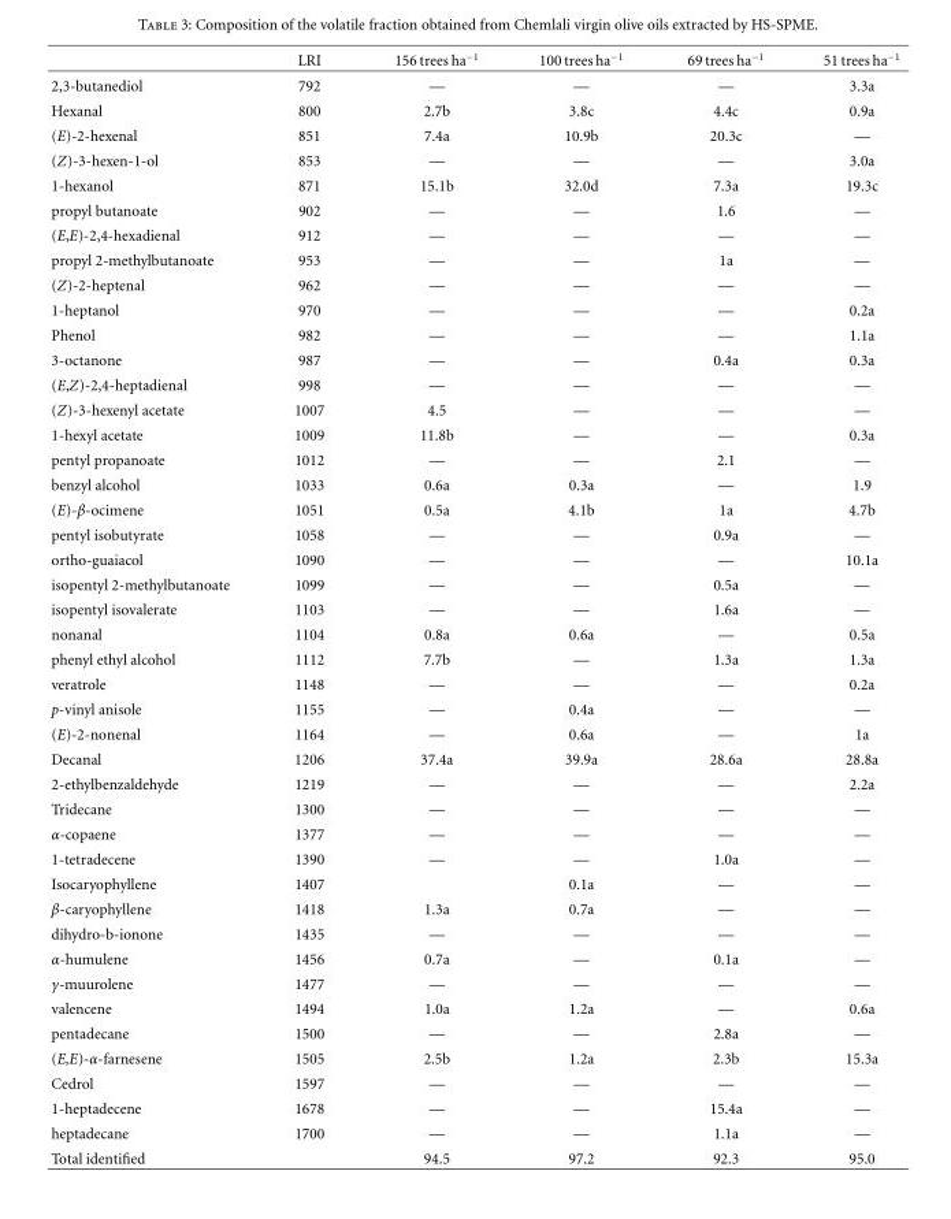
<table><thead><tr><td></td><td>LRI</td><td>156 trees ha<sup>−1</sup></td><td>100 trees ha<sup>−1</sup></td><td>69 trees ha<sup>−1</sup></td><td>51 trees ha<sup>−1</sup></td></tr></thead><tbody><tr><td>2,3-butanediol</td><td>792</td><td>—</td><td>—</td><td>—</td><td>3.3a</td></tr><tr><td>Hexanal</td><td>800</td><td>2.7b</td><td>3.8c</td><td>4.4c</td><td>0.9a</td></tr><tr><td>(E)-2-hexenal</td><td>851</td><td>7.4a</td><td>10.9b</td><td>20.3c</td><td>—</td></tr><tr><td>(Z)-3-hexen-1-ol</td><td>853</td><td>—</td><td>—</td><td>—</td><td>3.0a</td></tr><tr><td>1-hexanol</td><td>871</td><td>15.1b</td><td>32.0d</td><td>7.3a</td><td>19.3c</td></tr><tr><td>propyl butanoate</td><td>902</td><td>—</td><td>—</td><td>1.6</td><td>—</td></tr><tr><td>(E,E)-2,4-hexadienal</td><td>912</td><td>—</td><td>—</td><td>—</td><td>—</td></tr><tr><td>propyl 2-methylbutanoate</td><td>953</td><td>—</td><td>—</td><td>1a</td><td>—</td></tr><tr><td>(Z)-2-heptenal</td><td>962</td><td>—</td><td>—</td><td>—</td><td>—</td></tr><tr><td>1-heptanol</td><td>970</td><td>—</td><td>—</td><td>—</td><td>0.2a</td></tr><tr><td>Phenol</td><td>982</td><td>—</td><td>—</td><td>—</td><td>1.1a</td></tr><tr><td>3-octanone</td><td>987</td><td>—</td><td>—</td><td>0.4a</td><td>0.3a</td></tr><tr><td>(E,Z)-2,4-heptadienal</td><td>998</td><td>—</td><td>—</td><td>—</td><td>—</td></tr><tr><td>(Z)-3-hexenyl acetate</td><td>1007</td><td>4.5</td><td>—</td><td>—</td><td>—</td></tr><tr><td>1-hexyl acetate</td><td>1009</td><td>11.8b</td><td>—</td><td>—</td><td>0.3a</td></tr><tr><td>pentyl propanoate</td><td>1012</td><td>—</td><td>—</td><td>2.1</td><td>—</td></tr><tr><td>benzyl alcohol</td><td>1033</td><td>0.6a</td><td>0.3a</td><td>—</td><td>1.9</td></tr><tr><td>(E)-β-ocimene</td><td>1051</td><td>0.5a</td><td>4.1b</td><td>1a</td><td>4.7b</td></tr><tr><td>pentyl isobutyrate</td><td>1058</td><td>—</td><td>—</td><td>0.9a</td><td>—</td></tr><tr><td>ortho-guaiacol</td><td>1090</td><td>—</td><td>—</td><td>—</td><td>10.1a</td></tr><tr><td>isopentyl 2-methylbutanoate</td><td>1099</td><td>—</td><td>—</td><td>0.5a</td><td>—</td></tr><tr><td>isopentyl isovalerate</td><td>1103</td><td>—</td><td>—</td><td>1.6a</td><td>—</td></tr><tr><td>nonanal</td><td>1104</td><td>0.8a</td><td>0.6a</td><td>—</td><td>0.5a</td></tr><tr><td>phenyl ethyl alcohol</td><td>1112</td><td>7.7b</td><td>—</td><td>1.3a</td><td>1.3a</td></tr><tr><td>veratrole</td><td>1148</td><td>—</td><td>—</td><td>—</td><td>0.2a</td></tr><tr><td>p-vinyl anisole</td><td>1155</td><td>—</td><td>0.4a</td><td>—</td><td>—</td></tr><tr><td>(E)-2-nonenal</td><td>1164</td><td>—</td><td>0.6a</td><td>—</td><td>1a</td></tr><tr><td>Decanal</td><td>1206</td><td>37.4a</td><td>39.9a</td><td>28.6a</td><td>28.8a</td></tr><tr><td>2-ethylbenzaldehyde</td><td>1219</td><td>—</td><td>—</td><td>—</td><td>2.2a</td></tr><tr><td>Tridecane</td><td>1300</td><td>—</td><td>—</td><td>—</td><td>—</td></tr><tr><td>α-copaene</td><td>1377</td><td>—</td><td>—</td><td>—</td><td>—</td></tr><tr><td>1-tetradecene</td><td>1390</td><td>—</td><td>—</td><td>1.0a</td><td>—</td></tr><tr><td>Isocaryophyllene</td><td>1407</td><td></td><td>0.1a</td><td>—</td><td>—</td></tr><tr><td>β-caryophyllene</td><td>1418</td><td>1.3a</td><td>0.7a</td><td>—</td><td>—</td></tr><tr><td>dihydro-b-ionone</td><td>1435</td><td>—</td><td>—</td><td>—</td><td>—</td></tr><tr><td>α-humulene</td><td>1456</td><td>0.7a</td><td>—</td><td>0.1a</td><td>—</td></tr><tr><td>γ-muurolene</td><td>1477</td><td>—</td><td>—</td><td>—</td><td>—</td></tr><tr><td>valencene</td><td>1494</td><td>1.0a</td><td>1.2a</td><td>—</td><td>0.6a</td></tr><tr><td>pentadecane</td><td>1500</td><td>—</td><td>—</td><td>2.8a</td><td>—</td></tr><tr><td>(E,E)-α-farnesene</td><td>1505</td><td>2.5b</td><td>1.2a</td><td>2.3b</td><td>15.3a</td></tr><tr><td>Cedrol</td><td>1597</td><td>—</td><td>—</td><td>—</td><td>—</td></tr><tr><td>1-heptadecene</td><td>1678</td><td>—</td><td>—</td><td>15.4a</td><td>—</td></tr><tr><td>heptadecane</td><td>1700</td><td>—</td><td>—</td><td>1.1a</td><td>—</td></tr><tr><td>Total identified</td><td></td><td>94.5</td><td>97.2</td><td>92.3</td><td>95.0</td></tr></tbody></table>